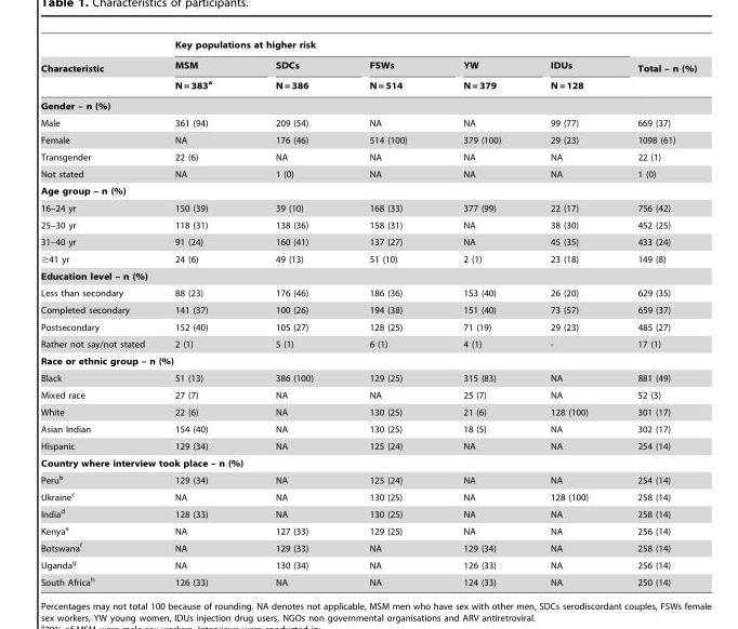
<table><thead><tr><td rowspan="3">Characteristic</td><td colspan="5">Key populations at higher risk</td><td rowspan="3">Total – n (%)</td></tr><tr><td rowspan="2">MSM N = 383<sup>a</sup></td><td rowspan="2">SDCs N = 386</td><td rowspan="2">FSWs N = 514</td><td rowspan="2">YW N = 379</td><td rowspan="2">IDUs N = 128</td></tr><tr></tr></thead><tbody><tr><td colspan="7">Gender – n (%)</td></tr><tr><td>Male</td><td>361 (94)</td><td>209 (54)</td><td>NA</td><td>NA</td><td>99 (77)</td><td>669 (37)</td></tr><tr><td>Female</td><td>NA</td><td>176 (46)</td><td>514 (100)</td><td>379 (100)</td><td>29 (23)</td><td>1098 (61)</td></tr><tr><td>Transgender</td><td>22 (6)</td><td>NA</td><td>NA</td><td>NA</td><td>NA</td><td>22 (1)</td></tr><tr><td>Not stated</td><td>NA</td><td>1 (0)</td><td>NA</td><td>NA</td><td>NA</td><td>1 (0)</td></tr><tr><td colspan="7">Age group – n (%)</td></tr><tr><td>16–24 yr</td><td>150 (39)</td><td>39 (10)</td><td>168 (33)</td><td>377 (99)</td><td>22 (17)</td><td>756 (42)</td></tr><tr><td>25–30 yr</td><td>118 (31)</td><td>138 (36)</td><td>158 (31)</td><td>NA</td><td>38 (30)</td><td>452 (25)</td></tr><tr><td>31–40 yr</td><td>91 (24)</td><td>160 (41)</td><td>137 (27)</td><td>NA</td><td>45 (35)</td><td>433 (24)</td></tr><tr><td>≥41 yr</td><td>24 (6)</td><td>49 (13)</td><td>51 (10)</td><td>2 (1)</td><td>23 (18)</td><td>149 (8)</td></tr><tr><td colspan="7">Education level – n (%)</td></tr><tr><td>Less than secondary</td><td>88 (23)</td><td>176 (46)</td><td>186 (36)</td><td>153 (40)</td><td>26 (20)</td><td>629 (35)</td></tr><tr><td>Completed secondary</td><td>141 (37)</td><td>100 (26)</td><td>194 (38)</td><td>151 (40)</td><td>73 (57)</td><td>659 (37)</td></tr><tr><td>Postsecondary</td><td>152 (40)</td><td>105 (27)</td><td>128 (25)</td><td>71 (19)</td><td>29 (23)</td><td>485 (27)</td></tr><tr><td>Rather not say/not stated</td><td>2 (1)</td><td>5 (1)</td><td>6 (1)</td><td>4 (1)</td><td>-</td><td>17 (1)</td></tr><tr><td colspan="7">Race or ethnic group – n (%)</td></tr><tr><td>Black</td><td>51 (13)</td><td>386 (100)</td><td>129 (25)</td><td>315 (83)</td><td>NA</td><td>881 (49)</td></tr><tr><td>Mixed race</td><td>27 (7)</td><td>NA</td><td>NA</td><td>25 (7)</td><td>NA</td><td>52 (3)</td></tr><tr><td>White</td><td>22 (6)</td><td>NA</td><td>130 (25)</td><td>21 (6)</td><td>128 (100)</td><td>301 (17)</td></tr><tr><td>Asian Indian</td><td>154 (40)</td><td>NA</td><td>130 (25)</td><td>18 (5)</td><td>NA</td><td>302 (17)</td></tr><tr><td>Hispanic</td><td>129 (34)</td><td>NA</td><td>125 (24)</td><td>NA</td><td>NA</td><td>254 (14)</td></tr><tr><td colspan="7">Country where interview took place – n (%)</td></tr><tr><td>Peru<sup>b</sup></td><td>129 (34)</td><td>NA</td><td>125 (24)</td><td>NA</td><td>NA</td><td>254 (14)</td></tr><tr><td>Ukraine<sup>c</sup></td><td>NA</td><td>NA</td><td>130 (25)</td><td>NA</td><td>128 (100)</td><td>258 (14)</td></tr><tr><td>India<sup>d</sup></td><td>128 (33)</td><td>NA</td><td>130 (25)</td><td>NA</td><td>NA</td><td>258 (14)</td></tr><tr><td>Kenya<sup>e</sup></td><td>NA</td><td>127 (33)</td><td>129 (25)</td><td>NA</td><td>NA</td><td>256 (14)</td></tr><tr><td>Botswana<sup>f</sup></td><td>NA</td><td>129 (33)</td><td>NA</td><td>129 (34)</td><td>NA</td><td>258 (14)</td></tr><tr><td>Uganda<sup>g</sup></td><td>NA</td><td>130 (34)</td><td>NA</td><td>126 (33)</td><td>NA</td><td>256 (14)</td></tr><tr><td>South Africa<sup>h</sup></td><td>126 (33)</td><td>NA</td><td>NA</td><td>124 (33)</td><td>NA</td><td>250 (14)</td></tr></tbody></table>